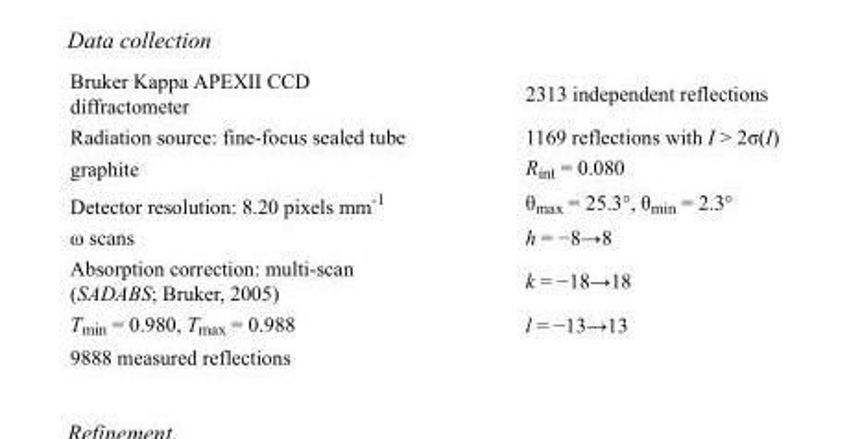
<table><tbody><tr><td>Bruker Kappa APEXII CCD diffractometer</td><td>2313 independent reflections</td></tr><tr><td>Radiation source: fine-focus sealed tube</td><td>1169 reflections with I &gt; 2σ(I)</td></tr><tr><td>graphite</td><td>R<sub>int</sub> = 0.080</td></tr><tr><td>Detector resolution: 8.20 pixels mm<sup>-1</sup></td><td>θ<sub>max</sub> = 25.3°, θ<sub>min</sub> = 2.3°</td></tr><tr><td>ω scans</td><td>h = −8→8</td></tr><tr><td>Absorption correction: multi-scan (SADABS; Bruker, 2005)</td><td>k = −18→18</td></tr><tr><td>T<sub>min</sub> = 0.980, T<sub>max</sub> = 0.988</td><td>l = −13→13</td></tr><tr><td>9888 measured reflections</td><td></td></tr></tbody></table>